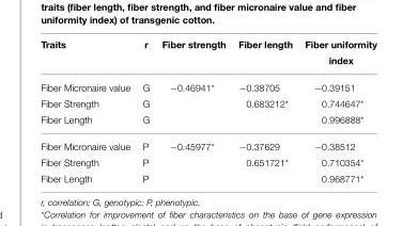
<table><thead><tr><td>Traits</td><td>r</td><td>Fiber strength</td><td>Fiber length</td><td>Fiber uniformity index</td></tr></thead><tbody><tr><td>Fiber Micronaire value</td><td>G</td><td>−0.46941*</td><td>−0.38705</td><td>−0.39151</td></tr><tr><td>Fiber Strength</td><td>G</td><td></td><td>0.683212*</td><td>0.744647*</td></tr><tr><td>Fiber Length</td><td>G</td><td></td><td></td><td>0.996888*</td></tr><tr><td>Fiber Micronaire value</td><td>P</td><td>−0.45977*</td><td>−0.37629</td><td>−0.38512</td></tr><tr><td>Fiber Strength</td><td>P</td><td></td><td>0.651721*</td><td>0.710354*</td></tr><tr><td>Fiber Length</td><td>P</td><td></td><td></td><td>0.968771*</td></tr></tbody></table>